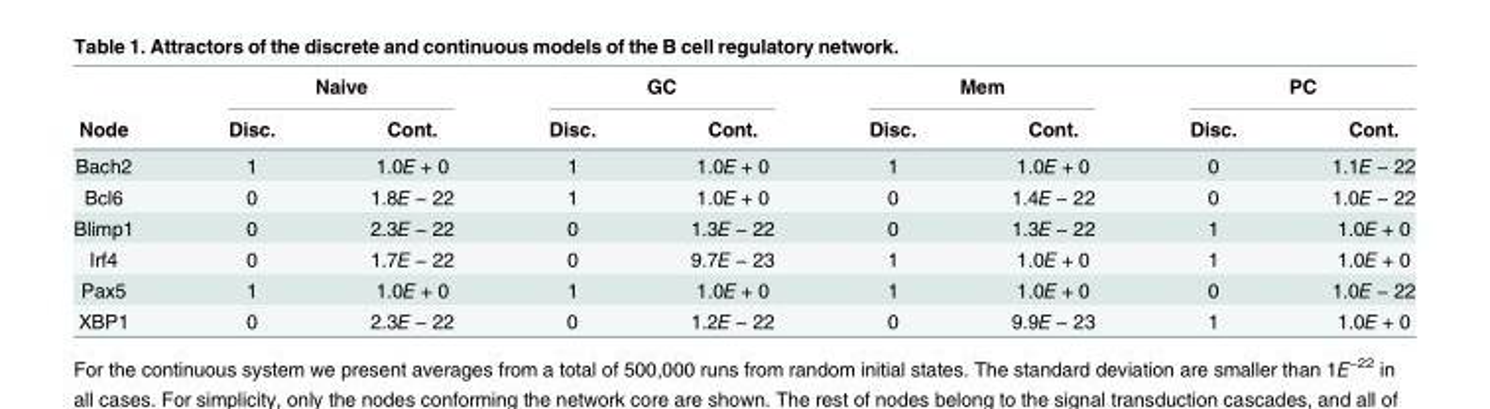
<table><thead><tr><td rowspan="2">Node</td><td colspan="2">Naive</td><td colspan="2">GC</td><td colspan="2">Mem</td><td colspan="2">PC</td></tr><tr><td>Disc.</td><td>Cont.</td><td>Disc.</td><td>Cont.</td><td>Disc.</td><td>Cont.</td><td>Disc.</td><td>Cont.</td></tr></thead><tbody><tr><td>Bach2</td><td>1</td><td>1.0E + 0</td><td>1</td><td>1.0E + 0</td><td>1</td><td>1.0E + 0</td><td>0</td><td>1.1E − 22</td></tr><tr><td>Bcl6</td><td>0</td><td>1.8E − 22</td><td>1</td><td>1.0E + 0</td><td>0</td><td>1.4E − 22</td><td>0</td><td>1.0E − 22</td></tr><tr><td>Blimp1</td><td>0</td><td>2.3E − 22</td><td>0</td><td>1.3E − 22</td><td>0</td><td>1.3E − 22</td><td>1</td><td>1.0E + 0</td></tr><tr><td>Irf4</td><td>0</td><td>1.7E − 22</td><td>0</td><td>9.7E − 23</td><td>1</td><td>1.0E + 0</td><td>1</td><td>1.0E + 0</td></tr><tr><td>Pax5</td><td>1</td><td>1.0E + 0</td><td>1</td><td>1.0E + 0</td><td>1</td><td>1.0E + 0</td><td>0</td><td>1.0E − 22</td></tr><tr><td>XBP1</td><td>0</td><td>2.3E − 22</td><td>0</td><td>1.2E − 22</td><td>0</td><td>9.9E − 23</td><td>1</td><td>1.0E + 0</td></tr></tbody></table>